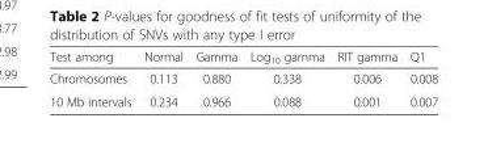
<table><thead><tr><td>Test among</td><td>Normal</td><td>Gamma</td><td>Log<sub>10</sub> gamma</td><td>RIT gamma</td><td>Q1</td></tr></thead><tbody><tr><td>Chromosomes</td><td>0.113</td><td>0.880</td><td>0.338</td><td>0.006</td><td>0.008</td></tr><tr><td>10 Mb intervals</td><td>0.234</td><td>0.966</td><td>0.088</td><td>0.001</td><td>0.007</td></tr></tbody></table>